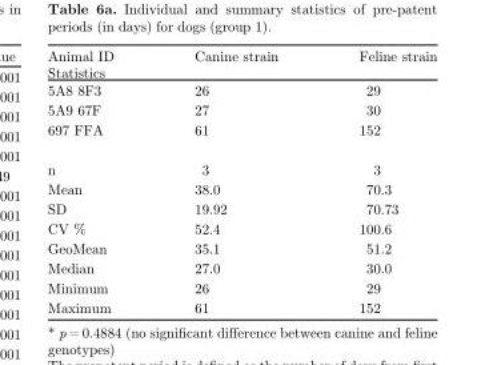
<table><thead><tr><td>Animal ID Statistics</td><td>Canine strain</td><td>Feline strain</td></tr></thead><tbody><tr><td>5A8 8F3</td><td>26</td><td>29</td></tr><tr><td>5A9 67F</td><td>27</td><td>30</td></tr><tr><td>697 FFA</td><td>61</td><td>152</td></tr><tr><td>n</td><td>3</td><td>3</td></tr><tr><td>Mean</td><td>38.0</td><td>70.3</td></tr><tr><td>SD</td><td>19.92</td><td>70.73</td></tr><tr><td>CV %</td><td>52.4</td><td>100.6</td></tr><tr><td>GeoMean</td><td>35.1</td><td>51.2</td></tr><tr><td>Median</td><td>27.0</td><td>30.0</td></tr><tr><td>Minimum</td><td>26</td><td>29</td></tr><tr><td>Maximum</td><td>61</td><td>152</td></tr></tbody></table>